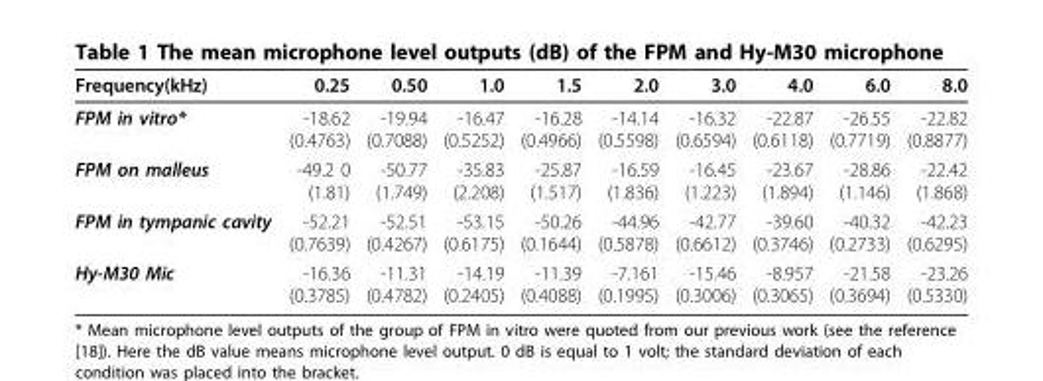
<table><thead><tr><td>Frequency(kHz)</td><td>0.25</td><td>0.50</td><td>1.0</td><td>1.5</td><td>2.0</td><td>3.0</td><td>4.0</td><td>6.0</td><td>8.0</td></tr></thead><tbody><tr><td>FPM in vitro*</td><td>-18.62 (0.4763)</td><td>-19.94 (0.7088)</td><td>-16.47 (0.5252)</td><td>-16.28 (0.4966)</td><td>-14.14 (0.5598)</td><td>-16.32 (0.6594)</td><td>-22.87 (0.6118)</td><td>-26.55 (0.7719)</td><td>-22.82 (0.8877)</td></tr><tr><td>FPM on malleus</td><td>-49.2 0 (1.81)</td><td>-50.77 (1.749)</td><td>-35.83 (2.208)</td><td>-25.87 (1.517)</td><td>-16.59 (1.836)</td><td>-16.45 (1.223)</td><td>-23.67 (1.894)</td><td>-28.86 (1.146)</td><td>-22.42 (1.868)</td></tr><tr><td>FPM in tympanic cavity</td><td>-52.21 (0.7639)</td><td>-52.51 (0.4267)</td><td>-53.15 (0.6175)</td><td>-50.26 (0.1644)</td><td>-44.96 (0.5878)</td><td>-42.77 (0.6612)</td><td>-39.60 (0.3746)</td><td>-40.32 (0.2733)</td><td>-42.23 (0.6295)</td></tr><tr><td>Hy-M30 Mic</td><td>-16.36 (0.3785)</td><td>-11.31 (0.4782)</td><td>-14.19 (0.2405)</td><td>-11.39 (0.4088)</td><td>-7.161 (0.1995)</td><td>-15.46 (0.3006)</td><td>-8.957 (0.3065)</td><td>-21.58 (0.3694)</td><td>-23.26 (0.5330)</td></tr></tbody></table>